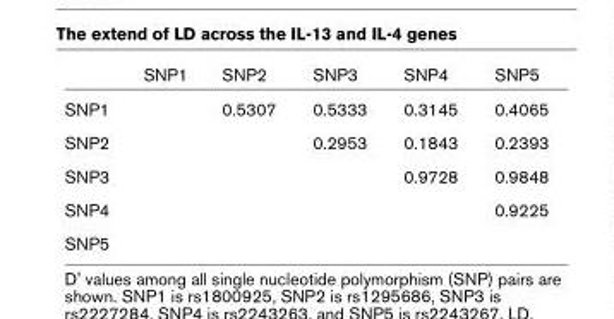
<table><thead><tr><td></td><td>SNP1</td><td>SNP2</td><td>SNP3</td><td>SNP4</td><td>SNP5</td></tr></thead><tbody><tr><td>SNP1</td><td></td><td>0.5307</td><td>0.5333</td><td>0.3145</td><td>0.4065</td></tr><tr><td>SNP2</td><td></td><td></td><td>0.2953</td><td>0.1843</td><td>0.2393</td></tr><tr><td>SNP3</td><td></td><td></td><td></td><td>0.9728</td><td>0.9848</td></tr><tr><td>SNP4</td><td></td><td></td><td></td><td></td><td>0.9225</td></tr><tr><td>SNP5</td><td></td><td></td><td></td><td></td><td></td></tr></tbody></table>